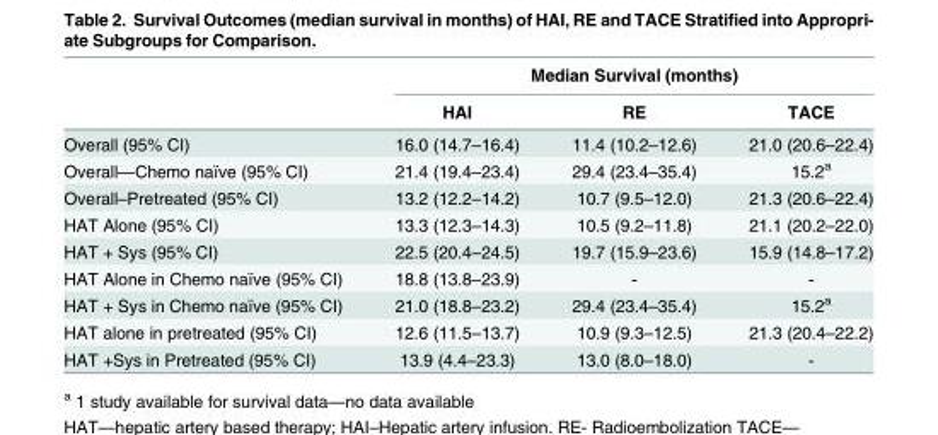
<table><thead><tr><td rowspan="2"></td><td colspan="3">Median Survival (months)</td></tr><tr><td>HAI</td><td>RE</td><td>TACE</td></tr></thead><tbody><tr><td>Overall (95% CI)</td><td>16.0 (14.7–16.4)</td><td>11.4 (10.2–12.6)</td><td>21.0 (20.6–22.4)</td></tr><tr><td>Overall—Chemo naïve (95% CI)</td><td>21.4 (19.4–23.4)</td><td>29.4 (23.4–35.4)</td><td>15.2<sup>a</sup></td></tr><tr><td>Overall–Pretreated (95% CI)</td><td>13.2 (12.2–14.2)</td><td>10.7 (9.5–12.0)</td><td>21.3 (20.6–22.4)</td></tr><tr><td>HAT Alone (95% CI)</td><td>13.3 (12.3–14.3)</td><td>10.5 (9.2–11.8)</td><td>21.1 (20.2–22.0)</td></tr><tr><td>HAT + Sys (95% CI)</td><td>22.5 (20.4–24.5)</td><td>19.7 (15.9–23.6)</td><td>15.9 (14.8–17.2)</td></tr><tr><td>HAT Alone in Chemo naïve (95% CI)</td><td>18.8 (13.8–23.9)</td><td>-</td><td>-</td></tr><tr><td>HAT + Sys in Chemo naïve (95% CI)</td><td>21.0 (18.8–23.2)</td><td>29.4 (23.4–35.4)</td><td>15.2<sup>a</sup></td></tr><tr><td>HAT alone in pretreated (95% CI)</td><td>12.6 (11.5–13.7)</td><td>10.9 (9.3–12.5)</td><td>21.3 (20.4–22.2)</td></tr><tr><td>HAT +Sys in Pretreated (95% CI)</td><td>13.9 (4.4–23.3)</td><td>13.0 (8.0–18.0)</td><td>-</td></tr></tbody></table>